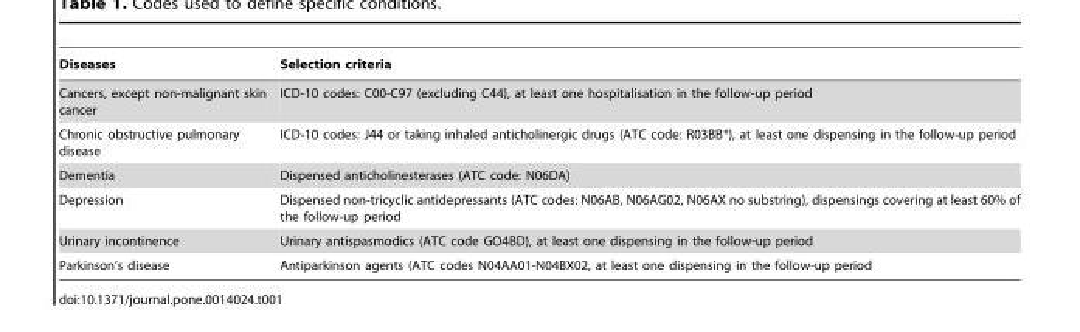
<table><thead><tr><td>Diseases</td><td>Selection criteria</td></tr></thead><tbody><tr><td>Cancers, except non-malignant skin cancer</td><td>ICD-10 codes: C00-C97 (excluding C44), at least one hospitalisation in the follow-up period</td></tr><tr><td>Chronic obstructive pulmonary disease</td><td>ICD-10 codes: J44 or taking inhaled anticholinergic drugs (ATC code: R03BB*), at least one dispensing in the follow-up period</td></tr><tr><td>Dementia</td><td>Dispensed anticholinesterases (ATC code: N06DA)</td></tr><tr><td>Depression</td><td>Dispensed non-tricyclic antidepressants (ATC codes: N06AB, N06AG02, N06AX no substring), dispensings covering at least 60% of the follow-up period</td></tr><tr><td>Urinary incontinence</td><td>Urinary antispasmodics (ATC code GO4BD), at least one dispensing in the follow-up period</td></tr><tr><td>Parkinson’s disease</td><td>Antiparkinson agents (ATC codes N04AA01-N04BX02, at least one dispensing in the follow-up period</td></tr></tbody></table>